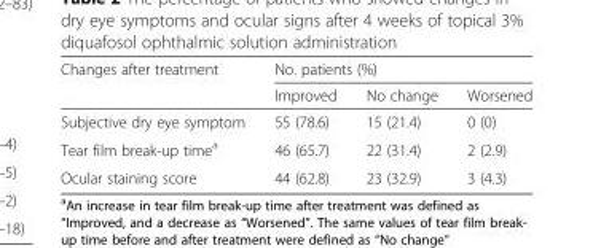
<table><thead><tr><td rowspan="2">Changes after treatment</td><td colspan="3">No. patients (%)</td></tr><tr><td>Improved</td><td>No change</td><td>Worsened</td></tr></thead><tbody><tr><td>Subjective dry eye symptom</td><td>55 (78.6)</td><td>15 (21.4)</td><td>0 (0)</td></tr><tr><td>Tear film break-up time<sup>a</sup></td><td>46 (65.7)</td><td>22 (31.4)</td><td>2 (2.9)</td></tr><tr><td>Ocular staining score</td><td>44 (62.8)</td><td>23 (32.9)</td><td>3 (4.3)</td></tr></tbody></table>